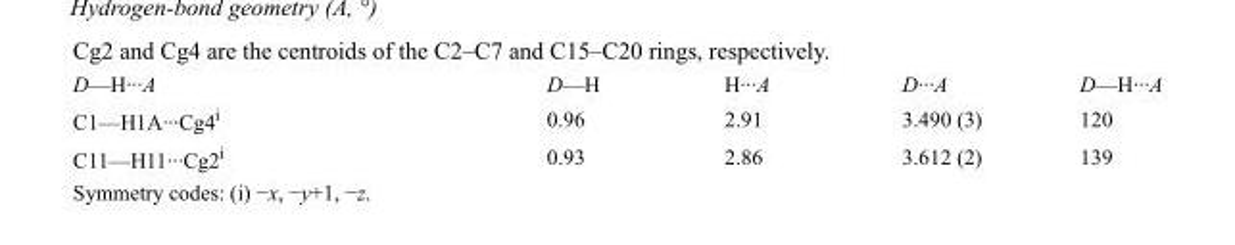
<table><tbody><tr><td>D—H···A</td><td>D—H</td><td>H···A</td><td>D···A</td><td>D—H···A</td></tr><tr><td>C1—H1A···Cg4<sup>i</sup></td><td>0.96</td><td>2.91</td><td>3.490 (3)</td><td>120</td></tr><tr><td>C11—H11···Cg2<sup>i</sup></td><td>0.93</td><td>2.86</td><td>3.612 (2)</td><td>139</td></tr></tbody></table>